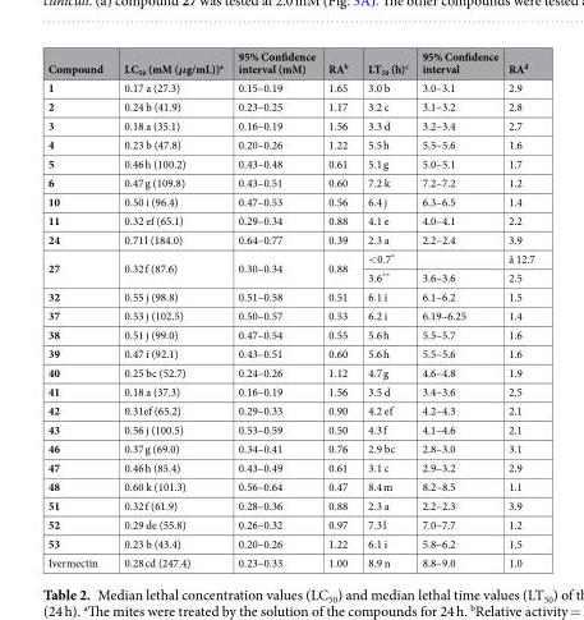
<table><thead><tr><td>Compound</td><td>LC<sub>50</sub> (mM (μg/mL))<sup>a</sup></td><td>95% Confidence interval (mM)</td><td>RA<sup>b</sup></td><td>LT<sub>50</sub> (h)<sup>c</sup></td><td>95% Confidence interval</td><td>RA<sup>d</sup></td></tr></thead><tbody><tr><td>1</td><td>0.17 a (27.3)</td><td>0.15–0.19</td><td>1.65</td><td>3.0 b</td><td>3.0–3.1</td><td>2.9</td></tr><tr><td>2</td><td>0.24 b (41.9)</td><td>0.23–0.25</td><td>1.17</td><td>3.2 c</td><td>3.1–3.2</td><td>2.8</td></tr><tr><td>3</td><td>0.18 a (35.1)</td><td>0.16–0.19</td><td>1.56</td><td>3.3 d</td><td>3.2–3.4</td><td>2.7</td></tr><tr><td>4</td><td>0.23 b (47.8)</td><td>0.20–0.26</td><td>1.22</td><td>5.5 h</td><td>5.5–5.6</td><td>1.6</td></tr><tr><td>5</td><td>0.46 h (100.2)</td><td>0.43–0.48</td><td>0.61</td><td>5.1 g</td><td>5.0–5.1</td><td>1.7</td></tr><tr><td>6</td><td>0.47 g (109.8)</td><td>0.43–0.51</td><td>0.60</td><td>7.2 k</td><td>7.2–7.2</td><td>1.2</td></tr><tr><td>10</td><td>0.50 i (96.4)</td><td>0.47–0.53</td><td>0.56</td><td>6.4 j</td><td>6.3–6.5</td><td>1.4</td></tr><tr><td>11</td><td>0.32 ef (65.1)</td><td>0.29–0.34</td><td>0.88</td><td>4.1 e</td><td>4.0–4.1</td><td>2.2</td></tr><tr><td>24</td><td>0.71 l (184.0)</td><td>0.64–0.77</td><td>0.39</td><td>2.3 a</td><td>2.2–2.4</td><td>3.9</td></tr><tr><td rowspan="2">27</td><td rowspan="2">0.32 f (87.6)</td><td rowspan="2">0.30–0.34</td><td rowspan="2">0.88</td><td>&lt;0.7*</td><td></td><td>å 12.7</td></tr><tr><td>3.6**</td><td>3.6–3.6</td><td>2.5</td></tr><tr><td>32</td><td>0.55 j (98.8)</td><td>0.51–0.58</td><td>0.51</td><td>6.1 i</td><td>6.1–6.2</td><td>1.5</td></tr><tr><td>37</td><td>0.53 j (102.5)</td><td>0.50–0.57</td><td>0.53</td><td>6.2 i</td><td>6.19–6.25</td><td>1.4</td></tr><tr><td>38</td><td>0.51 j (99.0)</td><td>0.47–0.54</td><td>0.55</td><td>5.6 h</td><td>5.5–5.7</td><td>1.6</td></tr><tr><td>39</td><td>0.47 i (92.1)</td><td>0.43–0.51</td><td>0.60</td><td>5.6 h</td><td>5.5–5.6</td><td>1.6</td></tr><tr><td>40</td><td>0.25 bc (52.7)</td><td>0.24–0.26</td><td>1.12</td><td>4.7 g</td><td>4.6–4.8</td><td>1.9</td></tr><tr><td>41</td><td>0.18 a (37.3)</td><td>0.16–0.19</td><td>1.56</td><td>3.5 d</td><td>3.4–3.6</td><td>2.5</td></tr><tr><td>42</td><td>0.31ef (65.2)</td><td>0.29–0.33</td><td>0.90</td><td>4.2 ef</td><td>4.2–4.3</td><td>2.1</td></tr><tr><td>43</td><td>0.56 j (100.5)</td><td>0.53–0.59</td><td>0.50</td><td>4.3 f</td><td>4.1–4.6</td><td>2.1</td></tr><tr><td>46</td><td>0.37 g (69.0)</td><td>0.34–0.41</td><td>0.76</td><td>2.9 bc</td><td>2.8–3.0</td><td>3.1</td></tr><tr><td>47</td><td>0.46 h (85.4)</td><td>0.43–0.49</td><td>0.61</td><td>3.1 c</td><td>2.9–3.2</td><td>2.9</td></tr><tr><td>48</td><td>0.60 k (101.3)</td><td>0.56–0.64</td><td>0.47</td><td>8.4 m</td><td>8.2–8.5</td><td>1.1</td></tr><tr><td>51</td><td>0.32 f (61.9)</td><td>0.28–0.36</td><td>0.88</td><td>2.3 a</td><td>2.2–2.3</td><td>3.9</td></tr><tr><td>52</td><td>0.29 de (55.8)</td><td>0.26–0.32</td><td>0.97</td><td>7.3 l</td><td>7.0–7.7</td><td>1.2</td></tr><tr><td>53</td><td>0.23 b (43.4)</td><td>0.20–0.26</td><td>1.22</td><td>6.1 i</td><td>5.8–6.2</td><td>1.5</td></tr><tr><td>Ivermectin</td><td>0.28 cd (247.4)</td><td>0.23–0.33</td><td>1.00</td><td>8.9 n</td><td>8.8–9.0</td><td>1.0</td></tr></tbody></table>